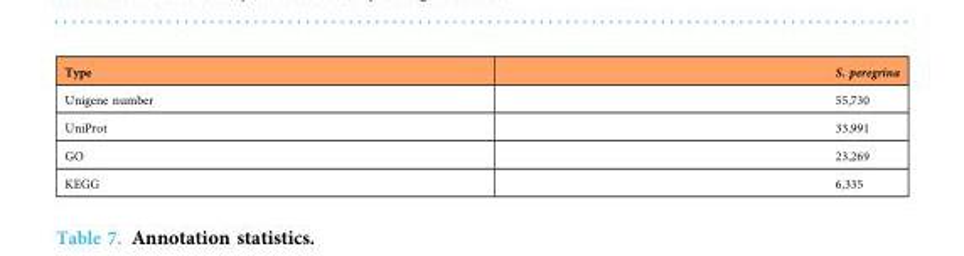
<table><thead><tr><td>Type</td><td>S. peregrina</td></tr></thead><tbody><tr><td>Unigene number</td><td>55,730</td></tr><tr><td>UniProt</td><td>33,991</td></tr><tr><td>GO</td><td>23,269</td></tr><tr><td>KEGG</td><td>6,335</td></tr></tbody></table>